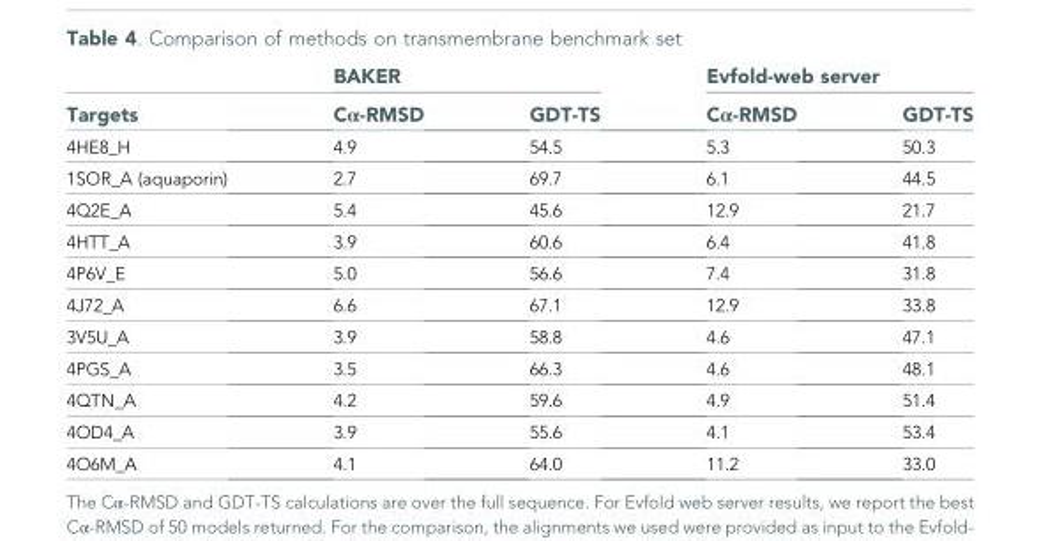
<table><thead><tr><td rowspan="2">Targets</td><td colspan="2">BAKER</td><td colspan="2">Evfold-web server</td></tr><tr><td>Cα-RMSD</td><td>GDT-TS</td><td>Cα-RMSD</td><td>GDT-TS</td></tr></thead><tbody><tr><td>4HE8_H</td><td>4.9</td><td>54.5</td><td>5.3</td><td>50.3</td></tr><tr><td>1SOR_A (aquaporin)</td><td>2.7</td><td>69.7</td><td>6.1</td><td>44.5</td></tr><tr><td>4Q2E_A</td><td>5.4</td><td>45.6</td><td>12.9</td><td>21.7</td></tr><tr><td>4HTT_A</td><td>3.9</td><td>60.6</td><td>6.4</td><td>41.8</td></tr><tr><td>4P6V_E</td><td>5.0</td><td>56.6</td><td>7.4</td><td>31.8</td></tr><tr><td>4J72_A</td><td>6.6</td><td>67.1</td><td>12.9</td><td>33.8</td></tr><tr><td>3V5U_A</td><td>3.9</td><td>58.8</td><td>4.6</td><td>47.1</td></tr><tr><td>4PGS_A</td><td>3.5</td><td>66.3</td><td>4.6</td><td>48.1</td></tr><tr><td>4QTN_A</td><td>4.2</td><td>59.6</td><td>4.9</td><td>51.4</td></tr><tr><td>4OD4_A</td><td>3.9</td><td>55.6</td><td>4.1</td><td>53.4</td></tr><tr><td>4O6M_A</td><td>4.1</td><td>64.0</td><td>11.2</td><td>33.0</td></tr></tbody></table>